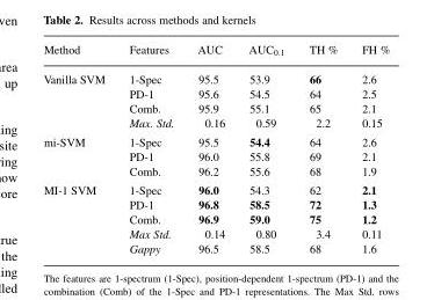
<table><thead><tr><td>Method</td><td>Features</td><td>AUC</td><td>AUC<sub>0.1</sub></td><td>TH %</td><td>FH %</td></tr></thead><tbody><tr><td rowspan="4">Vanilla SVM</td><td>1-Spec</td><td>95.5</td><td>53.9</td><td>66</td><td>2.6</td></tr><tr><td>PD-1</td><td>95.6</td><td>54.5</td><td>64</td><td>2.5</td></tr><tr><td>Comb.</td><td>95.9</td><td>55.1</td><td>65</td><td>2.1</td></tr><tr><td>Max. Std.</td><td>0.16</td><td>0.59</td><td>2.2</td><td>0.15</td></tr><tr><td rowspan="3">mi-SVM</td><td>1-Spec</td><td>95.5</td><td>54.4</td><td>64</td><td>2.6</td></tr><tr><td>PD-1</td><td>96.0</td><td>55.8</td><td>69</td><td>2.1</td></tr><tr><td>Comb.</td><td>96.2</td><td>55.6</td><td>68</td><td>1.9</td></tr><tr><td rowspan="5">MI-1 SVM</td><td>1-Spec</td><td>96.0</td><td>54.3</td><td>62</td><td>2.1</td></tr><tr><td>PD-1</td><td>96.8</td><td>58.5</td><td>72</td><td>1.3</td></tr><tr><td>Comb.</td><td>96.9</td><td>59.0</td><td>75</td><td>1.2</td></tr><tr><td>Max Std.</td><td>0.14</td><td>0.80</td><td>3.4</td><td>0.11</td></tr><tr><td>Gappy</td><td>96.5</td><td>58.5</td><td>68</td><td>1.6</td></tr></tbody></table>